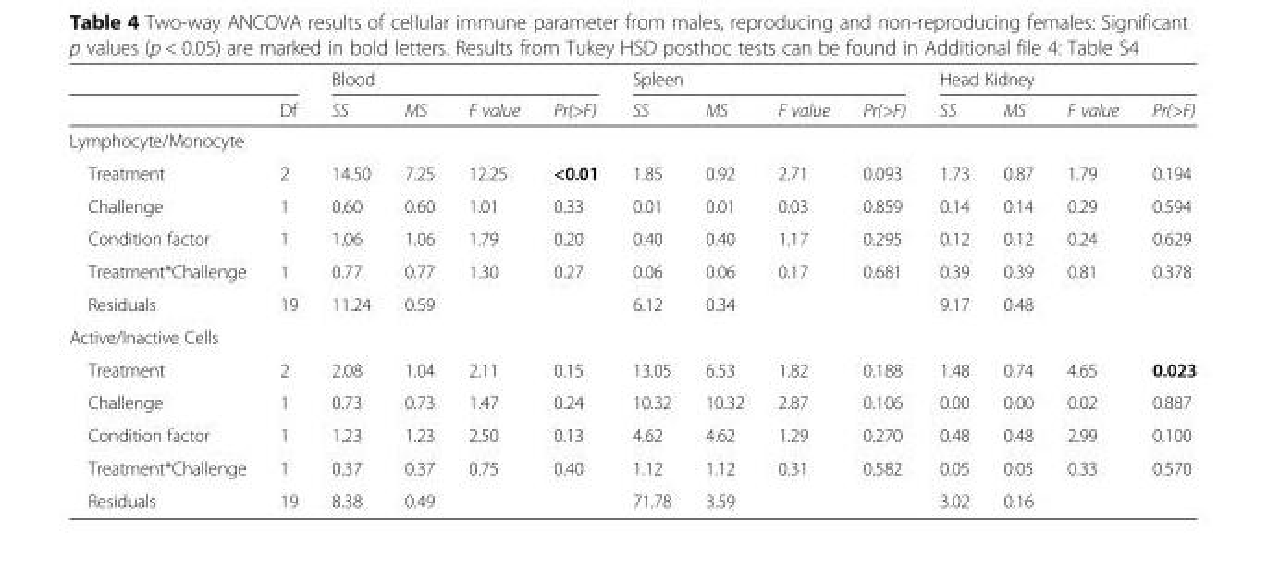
<table><thead><tr><td rowspan="2"></td><td rowspan="2">Df</td><td colspan="4">Blood</td><td colspan="4">Spleen</td><td colspan="4">Head Kidney</td></tr><tr><td>SS</td><td>MS</td><td>F value</td><td>Pr(&gt;F)</td><td>SS</td><td>MS</td><td>F value</td><td>Pr(&gt;F)</td><td>SS</td><td>MS</td><td>F value</td><td>Pr(&gt;F)</td></tr></thead><tbody><tr><td colspan="14">Lymphocyte/Monocyte</td></tr><tr><td>Treatment</td><td>2</td><td>14.50</td><td>7.25</td><td>12.25</td><td>&lt;0.01</td><td>1.85</td><td>0.92</td><td>2.71</td><td>0.093</td><td>1.73</td><td>0.87</td><td>1.79</td><td>0.194</td></tr><tr><td>Challenge</td><td>1</td><td>0.60</td><td>0.60</td><td>1.01</td><td>0.33</td><td>0.01</td><td>0.01</td><td>0.03</td><td>0.859</td><td>0.14</td><td>0.14</td><td>0.29</td><td>0.594</td></tr><tr><td>Condition factor</td><td>1</td><td>1.06</td><td>1.06</td><td>1.79</td><td>0.20</td><td>0.40</td><td>0.40</td><td>1.17</td><td>0.295</td><td>0.12</td><td>0.12</td><td>0.24</td><td>0.629</td></tr><tr><td>Treatment*Challenge</td><td>1</td><td>0.77</td><td>0.77</td><td>1.30</td><td>0.27</td><td>0.06</td><td>0.06</td><td>0.17</td><td>0.681</td><td>0.39</td><td>0.39</td><td>0.81</td><td>0.378</td></tr><tr><td>Residuals</td><td>19</td><td>11.24</td><td>0.59</td><td></td><td></td><td>6.12</td><td>0.34</td><td></td><td></td><td>9.17</td><td>0.48</td><td></td><td></td></tr><tr><td colspan="14">Active/Inactive Cells</td></tr><tr><td>Treatment</td><td>2</td><td>2.08</td><td>1.04</td><td>2.11</td><td>0.15</td><td>13.05</td><td>6.53</td><td>1.82</td><td>0.188</td><td>1.48</td><td>0.74</td><td>4.65</td><td>0.023</td></tr><tr><td>Challenge</td><td>1</td><td>0.73</td><td>0.73</td><td>1.47</td><td>0.24</td><td>10.32</td><td>10.32</td><td>2.87</td><td>0.106</td><td>0.00</td><td>0.00</td><td>0.02</td><td>0.887</td></tr><tr><td>Condition factor</td><td>1</td><td>1.23</td><td>1.23</td><td>2.50</td><td>0.13</td><td>4.62</td><td>4.62</td><td>1.29</td><td>0.270</td><td>0.48</td><td>0.48</td><td>2.99</td><td>0.100</td></tr><tr><td>Treatment*Challenge</td><td>1</td><td>0.37</td><td>0.37</td><td>0.75</td><td>0.40</td><td>1.12</td><td>1.12</td><td>0.31</td><td>0.582</td><td>0.05</td><td>0.05</td><td>0.33</td><td>0.570</td></tr><tr><td>Residuals</td><td>19</td><td>8.38</td><td>0.49</td><td></td><td></td><td>71.78</td><td>3.59</td><td></td><td></td><td>3.02</td><td>0.16</td><td></td><td></td></tr></tbody></table>